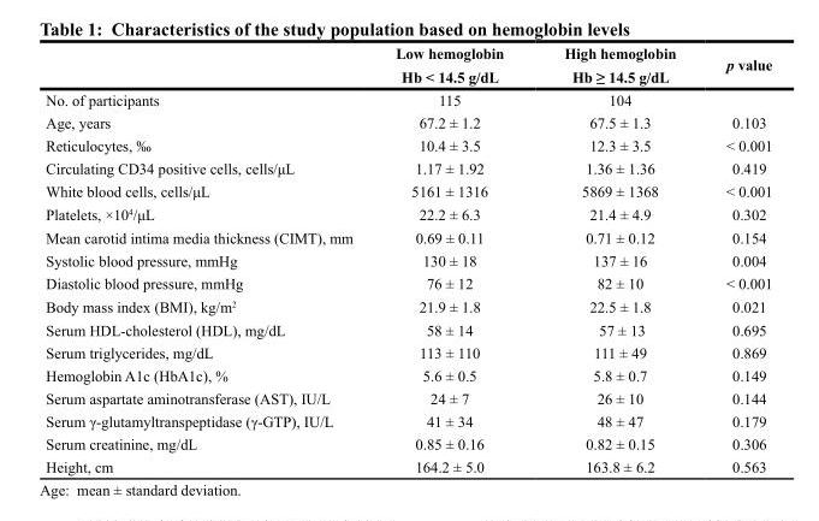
<table><thead><tr><td></td><td>Low hemoglobin Hb &lt; 14.5 g/dL</td><td>High hemoglobin Hb ≥ 14.5 g/dL</td><td>p value</td></tr></thead><tbody><tr><td>No. of participants</td><td>115</td><td>104</td><td></td></tr><tr><td>Age, years</td><td>67.2 ± 1.2</td><td>67.5 ± 1.3</td><td>0.103</td></tr><tr><td>Reticulocytes, ‰</td><td>10.4 ± 3.5</td><td>12.3 ± 3.5</td><td>&lt; 0.001</td></tr><tr><td>Circulating CD34 positive cells, cells/μL</td><td>1.17 ± 1.92</td><td>1.36 ± 1.36</td><td>0.419</td></tr><tr><td>White blood cells, cells/μL</td><td>5161 ± 1316</td><td>5869 ± 1368</td><td>&lt; 0.001</td></tr><tr><td>Platelets, ×10<sup>4</sup>/μL</td><td>22.2 ± 6.3</td><td>21.4 ± 4.9</td><td>0.302</td></tr><tr><td>Mean carotid intima media thickness (CIMT), mm</td><td>0.69 ± 0.11</td><td>0.71 ± 0.12</td><td>0.154</td></tr><tr><td>Systolic blood pressure, mmHg</td><td>130 ± 18</td><td>137 ± 16</td><td>0.004</td></tr><tr><td>Diastolic blood pressure, mmHg</td><td>76 ± 12</td><td>82 ± 10</td><td>&lt; 0.001</td></tr><tr><td>Body mass index (BMI), kg/m<sup>2</sup></td><td>21.9 ± 1.8</td><td>22.5 ± 1.8</td><td>0.021</td></tr><tr><td>Serum HDL-cholesterol (HDL), mg/dL</td><td>58 ± 14</td><td>57 ± 13</td><td>0.695</td></tr><tr><td>Serum triglycerides, mg/dL</td><td>113 ± 110</td><td>111 ± 49</td><td>0.869</td></tr><tr><td>Hemoglobin A1c (HbA1c), %</td><td>5.6 ± 0.5</td><td>5.8 ± 0.7</td><td>0.149</td></tr><tr><td>Serum aspartate aminotransferase (AST), IU/L</td><td>24 ± 7</td><td>26 ± 10</td><td>0.144</td></tr><tr><td>Serum γ-glutamyltranspeptidase (γ-GTP), IU/L</td><td>41 ± 34</td><td>48 ± 47</td><td>0.179</td></tr><tr><td>Serum creatinine, mg/dL</td><td>0.85 ± 0.16</td><td>0.82 ± 0.15</td><td>0.306</td></tr><tr><td>Height, cm</td><td>164.2 ± 5.0</td><td>163.8 ± 6.2</td><td>0.563</td></tr></tbody></table>